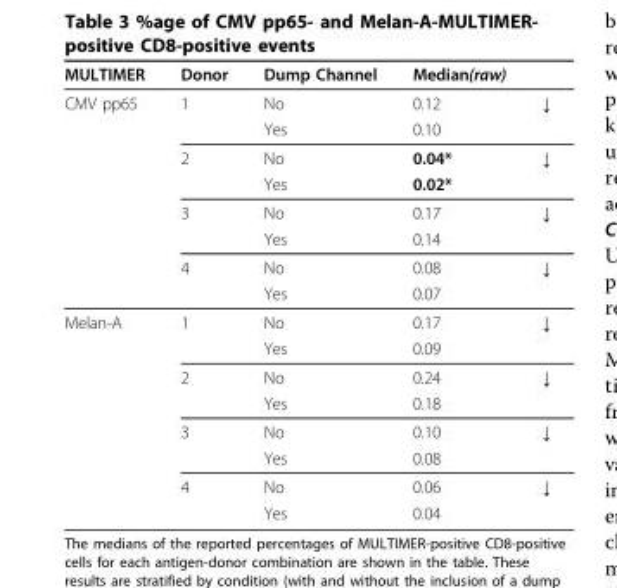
<table><thead><tr><td>MULTIMER</td><td>Donor</td><td>Dump Channel</td><td>Median(raw)</td><td></td></tr></thead><tbody><tr><td rowspan="8">CMV pp65</td><td>1</td><td>No</td><td>0.12</td><td>↓</td></tr><tr><td></td><td>Yes</td><td>0.10</td><td></td></tr><tr><td>2</td><td>No</td><td>0.04*</td><td>↓</td></tr><tr><td></td><td>Yes</td><td>0.02*</td><td></td></tr><tr><td>3</td><td>No</td><td>0.17</td><td>↓</td></tr><tr><td></td><td>Yes</td><td>0.14</td><td></td></tr><tr><td>4</td><td>No</td><td>0.08</td><td>↓</td></tr><tr><td></td><td>Yes</td><td>0.07</td><td></td></tr><tr><td rowspan="8">Melan-A</td><td>1</td><td>No</td><td>0.17</td><td>↓</td></tr><tr><td></td><td>Yes</td><td>0.09</td><td></td></tr><tr><td>2</td><td>No</td><td>0.24</td><td>↓</td></tr><tr><td></td><td>Yes</td><td>0.18</td><td></td></tr><tr><td>3</td><td>No</td><td>0.10</td><td>↓</td></tr><tr><td></td><td>Yes</td><td>0.08</td><td></td></tr><tr><td>4</td><td>No</td><td>0.06</td><td>↓</td></tr><tr><td></td><td>Yes</td><td>0.04</td><td></td></tr></tbody></table>